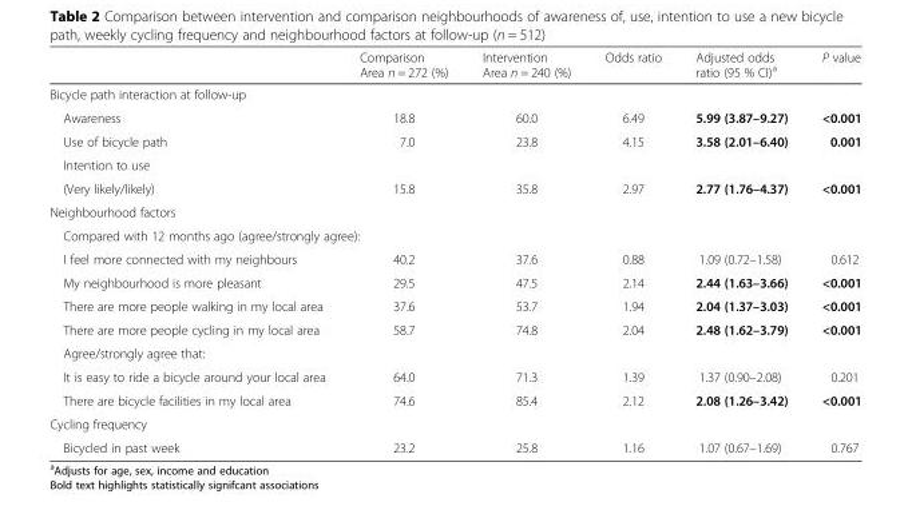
<table><thead><tr><td></td><td>Comparison Area n = 272 (%)</td><td>Intervention Area n = 240 (%)</td><td>Odds ratio</td><td>Adjusted odds ratio (95 % CI)<sup>a</sup></td><td>P value</td></tr></thead><tbody><tr><td colspan="6">Bicycle path interaction at follow-up</td></tr><tr><td>Awareness</td><td>18.8</td><td>60.0</td><td>6.49</td><td>5.99 (3.87–9.27)</td><td>&lt;0.001</td></tr><tr><td>Use of bicycle path</td><td>7.0</td><td>23.8</td><td>4.15</td><td>3.58 (2.01–6.40)</td><td>0.001</td></tr><tr><td colspan="6">Intention to use</td></tr><tr><td>(Very likely/likely)</td><td>15.8</td><td>35.8</td><td>2.97</td><td>2.77 (1.76–4.37)</td><td>&lt;0.001</td></tr><tr><td colspan="6">Neighbourhood factors</td></tr><tr><td colspan="6">Compared with 12 months ago (agree/strongly agree):</td></tr><tr><td>I feel more connected with my neighbours</td><td>40.2</td><td>37.6</td><td>0.88</td><td>1.09 (0.72–1.58)</td><td>0.612</td></tr><tr><td>My neighbourhood is more pleasant</td><td>29.5</td><td>47.5</td><td>2.14</td><td>2.44 (1.63–3.66)</td><td>&lt;0.001</td></tr><tr><td>There are more people walking in my local area</td><td>37.6</td><td>53.7</td><td>1.94</td><td>2.04 (1.37–3.03)</td><td>&lt;0.001</td></tr><tr><td>There are more people cycling in my local area</td><td>58.7</td><td>74.8</td><td>2.04</td><td>2.48 (1.62–3.79)</td><td>&lt;0.001</td></tr><tr><td colspan="6">Agree/strongly agree that:</td></tr><tr><td>It is easy to ride a bicycle around your local area</td><td>64.0</td><td>71.3</td><td>1.39</td><td>1.37 (0.90–2.08)</td><td>0.201</td></tr><tr><td>There are bicycle facilities in my local area</td><td>74.6</td><td>85.4</td><td>2.12</td><td>2.08 (1.26–3.42)</td><td>&lt;0.001</td></tr><tr><td colspan="6">Cycling frequency</td></tr><tr><td>Bicycled in past week</td><td>23.2</td><td>25.8</td><td>1.16</td><td>1.07 (0.67–1.69)</td><td>0.767</td></tr></tbody></table>